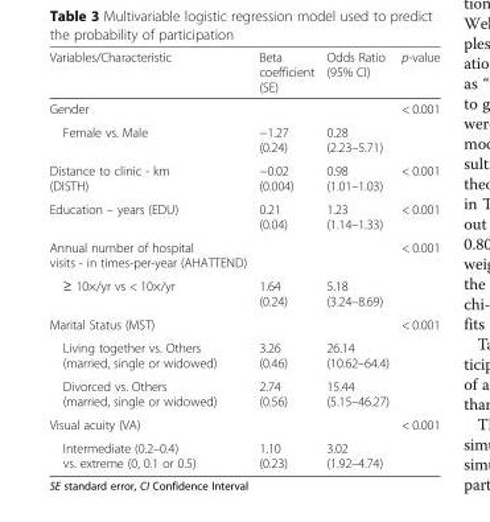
<table><thead><tr><td>Variables/Characteristic</td><td>Beta coefficient (SE)</td><td>Odds Ratio (95% CI)</td><td>p-value</td></tr></thead><tbody><tr><td>Gender</td><td></td><td></td><td>&lt; 0.001</td></tr><tr><td>Female vs. Male</td><td>−1.27 (0.24)</td><td>0.28 (2.23–5.71)</td><td></td></tr><tr><td>Distance to clinic - km (DISTH)</td><td>−0.02 (0.004)</td><td>0.98 (1.01–1.03)</td><td>&lt; 0.001</td></tr><tr><td>Education – years (EDU)</td><td>0.21 (0.04)</td><td>1.23 (1.14–1.33)</td><td>&lt; 0.001</td></tr><tr><td>Annual number of hospital visits - in times-per-year (AHATTEND)</td><td></td><td></td><td>&lt; 0.001</td></tr><tr><td>≥ 10×/yr vs &lt; 10×/yr</td><td>1.64 (0.24)</td><td>5.18 (3.24–8.69)</td><td></td></tr><tr><td>Marital Status (MST)</td><td></td><td></td><td>&lt; 0.001</td></tr><tr><td>Living together vs. Others (married, single or widowed)</td><td>3.26 (0.46)</td><td>26.14 (10.62–64.4)</td><td></td></tr><tr><td>Divorced vs. Others (married, single or widowed)</td><td>2.74 (0.56)</td><td>15.44 (5.15–46.27)</td><td></td></tr><tr><td>Visual acuity (VA)</td><td></td><td></td><td>&lt; 0.001</td></tr><tr><td>Intermediate (0.2–0.4) vs. extreme (0, 0.1 or 0.5)</td><td>1.10 (0.23)</td><td>3.02 (1.92–4.74)</td><td></td></tr></tbody></table>